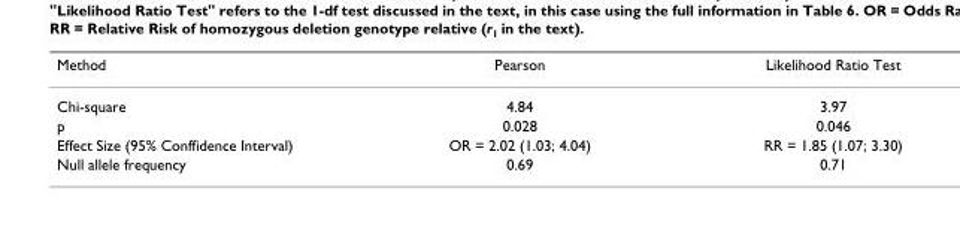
<table><thead><tr><td>Method</td><td>Pearson</td><td>Likelihood Ratio Test</td></tr></thead><tbody><tr><td>Chi-square</td><td>4.84</td><td>3.97</td></tr><tr><td>p</td><td>0.028</td><td>0.046</td></tr><tr><td>Effect Size (95% Conffidence Interval)</td><td>OR = 2.02 (1.03; 4.04)</td><td>RR = 1.85 (1.07; 3.30)</td></tr><tr><td>Null allele frequency</td><td>0.69</td><td>0.71</td></tr></tbody></table>